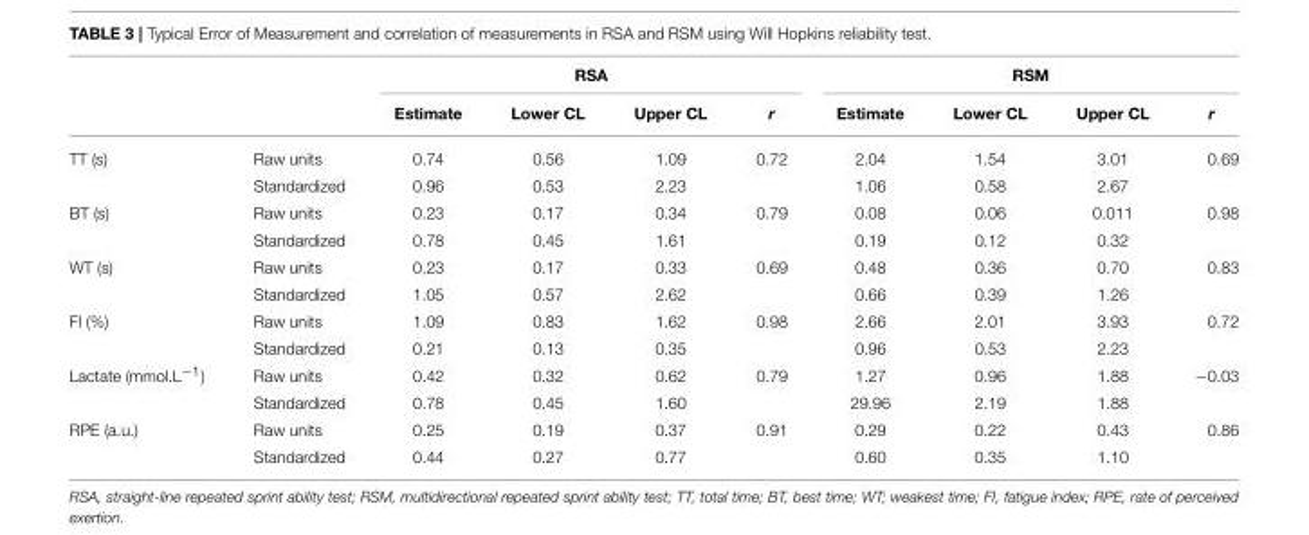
<table><thead><tr><td rowspan="2"></td><td rowspan="2"></td><td colspan="4">RSA</td><td colspan="4">RSM</td></tr><tr><td>Estimate</td><td>Lower CL</td><td>Upper CL</td><td>r</td><td>Estimate</td><td>Lower CL</td><td>Upper CL</td><td>r</td></tr></thead><tbody><tr><td rowspan="2">TT (s)</td><td>Raw units</td><td>0.74</td><td>0.56</td><td>1.09</td><td>0.72</td><td>2.04</td><td>1.54</td><td>3.01</td><td>0.69</td></tr><tr><td>Standardized</td><td>0.96</td><td>0.53</td><td>2.23</td><td></td><td>1.06</td><td>0.58</td><td>2.67</td><td></td></tr><tr><td rowspan="2">BT (s)</td><td>Raw units</td><td>0.23</td><td>0.17</td><td>0.34</td><td>0.79</td><td>0.08</td><td>0.06</td><td>0.011</td><td>0.98</td></tr><tr><td>Standardized</td><td>0.78</td><td>0.45</td><td>1.61</td><td></td><td>0.19</td><td>0.12</td><td>0.32</td><td></td></tr><tr><td rowspan="2">WT (s)</td><td>Raw units</td><td>0.23</td><td>0.17</td><td>0.33</td><td>0.69</td><td>0.48</td><td>0.36</td><td>0.70</td><td>0.83</td></tr><tr><td>Standardized</td><td>1.05</td><td>0.57</td><td>2.62</td><td></td><td>0.66</td><td>0.39</td><td>1.26</td><td></td></tr><tr><td rowspan="2">FI (%)</td><td>Raw units</td><td>1.09</td><td>0.83</td><td>1.62</td><td>0.98</td><td>2.66</td><td>2.01</td><td>3.93</td><td>0.72</td></tr><tr><td>Standardized</td><td>0.21</td><td>0.13</td><td>0.35</td><td></td><td>0.96</td><td>0.53</td><td>2.23</td><td></td></tr><tr><td rowspan="2">Lactate (mmol.L<sup>−1</sup>)</td><td>Raw units</td><td>0.42</td><td>0.32</td><td>0.62</td><td>0.79</td><td>1.27</td><td>0.96</td><td>1.88</td><td>−0.03</td></tr><tr><td>Standardized</td><td>0.78</td><td>0.45</td><td>1.60</td><td></td><td>29.96</td><td>2.19</td><td>1.88</td><td></td></tr><tr><td rowspan="2">RPE (a.u.)</td><td>Raw units</td><td>0.25</td><td>0.19</td><td>0.37</td><td>0.91</td><td>0.29</td><td>0.22</td><td>0.43</td><td>0.86</td></tr><tr><td>Standardized</td><td>0.44</td><td>0.27</td><td>0.77</td><td></td><td>0.60</td><td>0.35</td><td>1.10</td><td></td></tr></tbody></table>